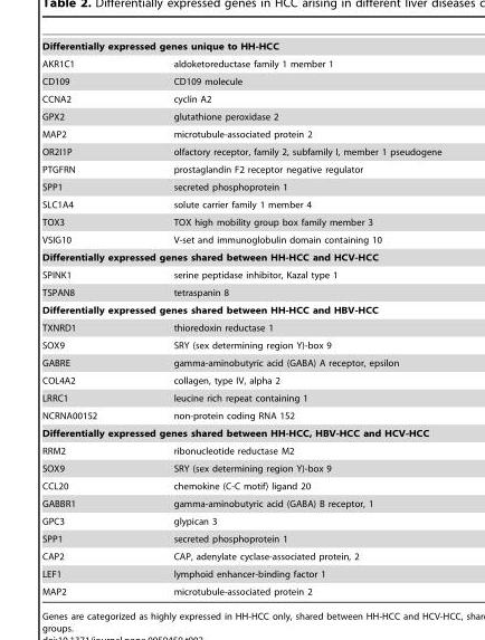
<table><tbody><tr><td colspan="2">Differentially expressed genes unique to HH-HCC</td></tr><tr><td>AKR1C1</td><td>aldoketoreductase family 1 member 1</td></tr><tr><td>CD109</td><td>CD109 molecule</td></tr><tr><td>CCNA2</td><td>cyclin A2</td></tr><tr><td>GPX2</td><td>glutathione peroxidase 2</td></tr><tr><td>MAP2</td><td>microtubule-associated protein 2</td></tr><tr><td>OR2I1P</td><td>olfactory receptor, family 2, subfamily I, member 1 pseudogene</td></tr><tr><td>PTGFRN</td><td>prostaglandin F2 receptor negative regulator</td></tr><tr><td>SPP1</td><td>secreted phosphoprotein 1</td></tr><tr><td>SLC1A4</td><td>solute carrier family 1 member 4</td></tr><tr><td>TOX3</td><td>TOX high mobility group box family member 3</td></tr><tr><td>VSIG10</td><td>V-set and immunoglobulin domain containing 10</td></tr><tr><td colspan="2">Differentially expressed genes shared between HH-HCC and HCV-HCC</td></tr><tr><td>SPINK1</td><td>serine peptidase inhibitor, Kazal type 1</td></tr><tr><td>TSPAN8</td><td>tetraspanin 8</td></tr><tr><td colspan="2">Differentially expressed genes shared between HH-HCC and HBV-HCC</td></tr><tr><td>TXNRD1</td><td>thioredoxin reductase 1</td></tr><tr><td>SOX9</td><td>SRY (sex determining region Y)-box 9</td></tr><tr><td>GABRE</td><td>gamma-aminobutyric acid (GABA) A receptor, epsilon</td></tr><tr><td>COL4A2</td><td>collagen, type IV, alpha 2</td></tr><tr><td>LRRC1</td><td>leucine rich repeat containing 1</td></tr><tr><td>NCRNA00152</td><td>non-protein coding RNA 152</td></tr><tr><td colspan="2">Differentially expressed genes shared between HH-HCC, HBV-HCC and HCV-HCC</td></tr><tr><td>RRM2</td><td>ribonucleotide reductase M2</td></tr><tr><td>SOX9</td><td>SRY (sex determining region Y)-box 9</td></tr><tr><td>CCL20</td><td>chemokine (C-C motif) ligand 20</td></tr><tr><td>GABBR1</td><td>gamma-aminobutyric acid (GABA) B receptor, 1</td></tr><tr><td>GPC3</td><td>glypican 3</td></tr><tr><td>SPP1</td><td>secreted phosphoprotein 1</td></tr><tr><td>CAP2</td><td>CAP, adenylate cyclase-associated protein, 2</td></tr><tr><td>LEF1</td><td>lymphoid enhancer-binding factor 1</td></tr><tr><td>MAP2</td><td>microtubule-associated protein 2</td></tr></tbody></table>